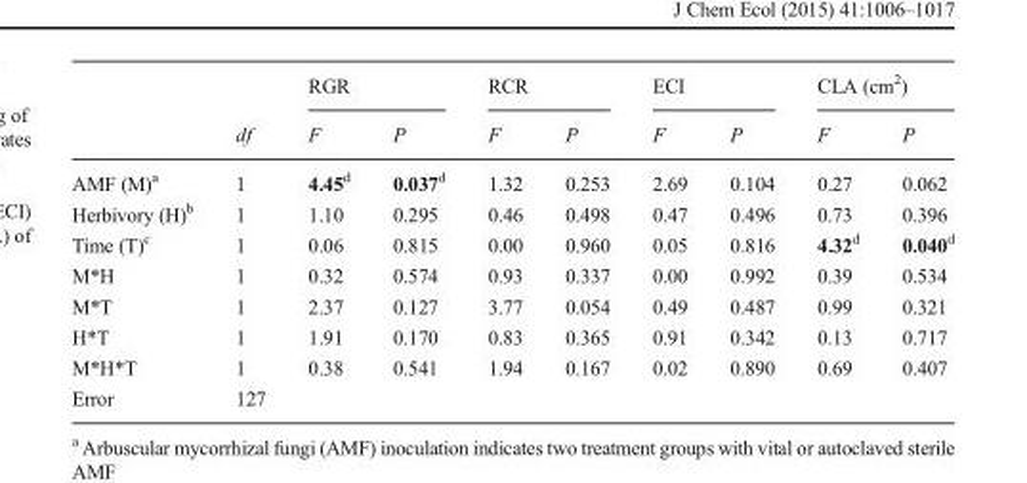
<table><thead><tr><td rowspan="2"></td><td rowspan="2">df</td><td colspan="2">RGR</td><td colspan="2">RCR</td><td colspan="2">ECI</td><td colspan="2">CLA (cm<sup>2</sup>)</td></tr><tr><td>F</td><td>P</td><td>F</td><td>P</td><td>F</td><td>P</td><td>F</td><td>P</td></tr></thead><tbody><tr><td>AMF (M)<sup>a</sup></td><td>1</td><td>4.45<sup>d</sup></td><td>0.037<sup>d</sup></td><td>1.32</td><td>0.253</td><td>2.69</td><td>0.104</td><td>0.27</td><td>0.062</td></tr><tr><td>Herbivory (H)<sup>b</sup></td><td>1</td><td>1.10</td><td>0.295</td><td>0.46</td><td>0.498</td><td>0.47</td><td>0.496</td><td>0.73</td><td>0.396</td></tr><tr><td>Time (T)<sup>c</sup></td><td>1</td><td>0.06</td><td>0.815</td><td>0.00</td><td>0.960</td><td>0.05</td><td>0.816</td><td>4.32<sup>d</sup></td><td>0.040<sup>d</sup></td></tr><tr><td>M*H</td><td>1</td><td>0.32</td><td>0.574</td><td>0.93</td><td>0.337</td><td>0.00</td><td>0.992</td><td>0.39</td><td>0.534</td></tr><tr><td>M*T</td><td>1</td><td>2.37</td><td>0.127</td><td>3.77</td><td>0.054</td><td>0.49</td><td>0.487</td><td>0.99</td><td>0.321</td></tr><tr><td>H*T</td><td>1</td><td>1.91</td><td>0.170</td><td>0.83</td><td>0.365</td><td>0.91</td><td>0.342</td><td>0.13</td><td>0.717</td></tr><tr><td>M*H*T</td><td>1</td><td>0.38</td><td>0.541</td><td>1.94</td><td>0.167</td><td>0.02</td><td>0.890</td><td>0.69</td><td>0.407</td></tr><tr><td>Error</td><td>127</td><td></td><td></td><td></td><td></td><td></td><td></td><td></td><td></td></tr></tbody></table>